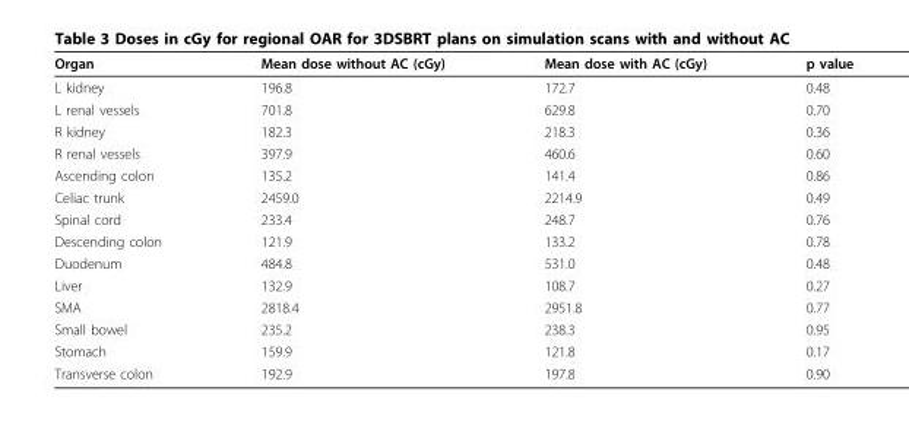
<table><thead><tr><td>Organ</td><td>Mean dose without AC (cGy)</td><td>Mean dose with AC (cGy)</td><td>p value</td></tr></thead><tbody><tr><td>L kidney</td><td>196.8</td><td>172.7</td><td>0.48</td></tr><tr><td>L renal vessels</td><td>701.8</td><td>629.8</td><td>0.70</td></tr><tr><td>R kidney</td><td>182.3</td><td>218.3</td><td>0.36</td></tr><tr><td>R renal vessels</td><td>397.9</td><td>460.6</td><td>0.60</td></tr><tr><td>Ascending colon</td><td>135.2</td><td>141.4</td><td>0.86</td></tr><tr><td>Celiac trunk</td><td>2459.0</td><td>2214.9</td><td>0.49</td></tr><tr><td>Spinal cord</td><td>233.4</td><td>248.7</td><td>0.76</td></tr><tr><td>Descending colon</td><td>121.9</td><td>133.2</td><td>0.78</td></tr><tr><td>Duodenum</td><td>484.8</td><td>531.0</td><td>0.48</td></tr><tr><td>Liver</td><td>132.9</td><td>108.7</td><td>0.27</td></tr><tr><td>SMA</td><td>2818.4</td><td>2951.8</td><td>0.77</td></tr><tr><td>Small bowel</td><td>235.2</td><td>238.3</td><td>0.95</td></tr><tr><td>Stomach</td><td>159.9</td><td>121.8</td><td>0.17</td></tr><tr><td>Transverse colon</td><td>192.9</td><td>197.8</td><td>0.90</td></tr></tbody></table>